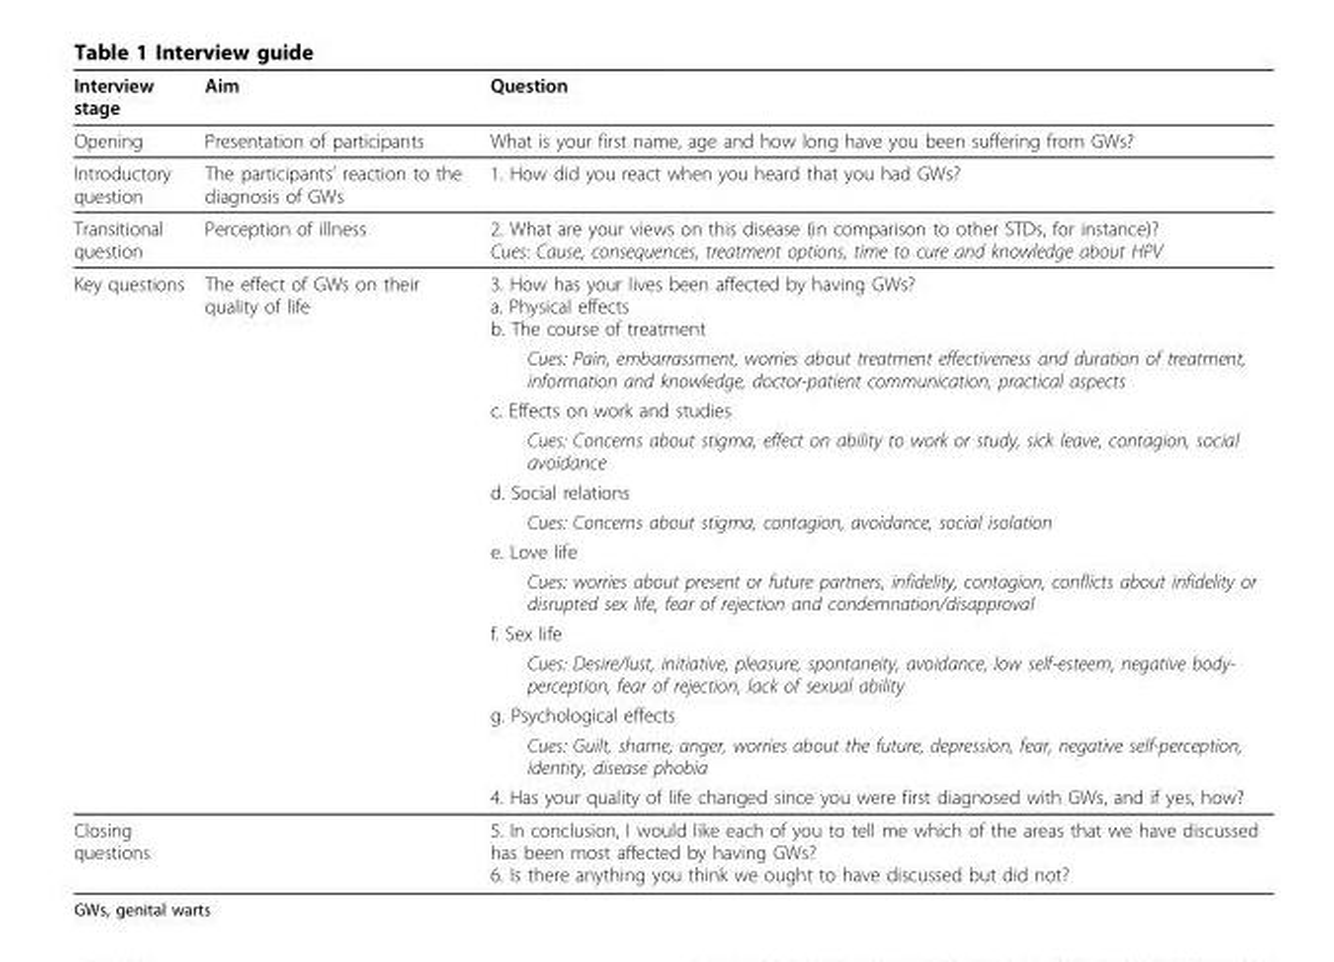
<table><thead><tr><td>Interview stage</td><td>Aim</td><td>Question</td></tr></thead><tbody><tr><td>Opening</td><td>Presentation of participants</td><td>What is your first name, age and how long have you been suffering from GWs?</td></tr><tr><td>Introductory question</td><td>The participants’ reaction to the diagnosis of GWs</td><td>1. How did you react when you heard that you had GWs?</td></tr><tr><td>Transitional question</td><td>Perception of illness</td><td>2. What are your views on this disease (in comparison to other STDs, for instance)? Cues: Cause, consequences, treatment options, time to cure and knowledge about HPV</td></tr><tr><td rowspan="13">Key questions</td><td>The effect of GWs on their quality of life</td><td>3. How has your lives been affected by having GWs? a. Physical effects b. The course of treatment</td></tr><tr><td></td><td>Cues: Pain, embarrassment, worries about treatment effectiveness and duration of treatment, information and knowledge, doctor-patient communication, practical aspects</td></tr><tr><td></td><td>c. Effects on work and studies</td></tr><tr><td></td><td>Cues: Concerns about stigma, effect on ability to work or study, sick leave, contagion, social avoidance</td></tr><tr><td></td><td>d. Social relations</td></tr><tr><td></td><td>Cues: Concerns about stigma, contagion, avoidance, social isolation</td></tr><tr><td></td><td>e. Love life</td></tr><tr><td></td><td>Cues: worries about present or future partners, infidelity, contagion, conflicts about infidelity or disrupted sex life, fear of rejection and condemnation/disapproval</td></tr><tr><td></td><td>f. Sex life</td></tr><tr><td></td><td>Cues: Desire/lust, initiative, pleasure, spontaneity, avoidance, low self-esteem, negative body- perception, fear of rejection, lack of sexual ability</td></tr><tr><td></td><td>g. Psychological effects</td></tr><tr><td></td><td>Cues: Guilt, shame, anger, worries about the future, depression, fear, negative self-perception, identity, disease phobia</td></tr><tr><td></td><td>4. Has your quality of life changed since you were first diagnosed with GWs, and if yes, how?</td></tr><tr><td>Closing questions</td><td></td><td>5. In conclusion, I would like each of you to tell me which of the areas that we have discussed has been most affected by having GWs? 6. Is there anything you think we ought to have discussed but did not?</td></tr></tbody></table>